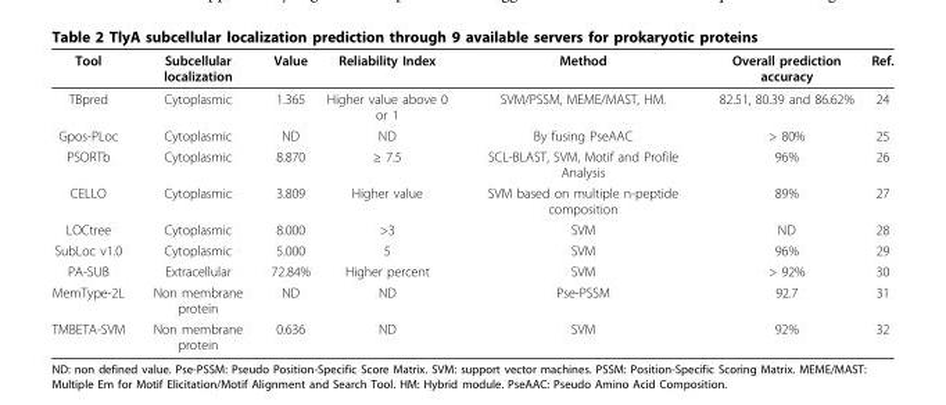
<table><thead><tr><td>Tool</td><td>Subcellular localization</td><td>Value</td><td>Reliability Index</td><td>Method</td><td>Overall prediction accuracy</td><td>Ref.</td></tr></thead><tbody><tr><td>TBpred</td><td>Cytoplasmic</td><td>1.365</td><td>Higher value above 0 or 1</td><td>SVM/PSSM, MEME/MAST, HM.</td><td>82.51, 80.39 and 86.62%</td><td>24</td></tr><tr><td>Gpos-PLoc</td><td>Cytoplasmic</td><td>ND</td><td>ND</td><td>By fusing PseAAC</td><td>&gt; 80%</td><td>25</td></tr><tr><td>PSORTb</td><td>Cytoplasmic</td><td>8.870</td><td>≥ 7.5</td><td>SCL-BLAST, SVM, Motif and Profile Analysis</td><td>96%</td><td>26</td></tr><tr><td>CELLO</td><td>Cytoplasmic</td><td>3.809</td><td>Higher value</td><td>SVM based on multiple n-peptide composition</td><td>89%</td><td>27</td></tr><tr><td>LOCtree</td><td>Cytoplasmic</td><td>8.000</td><td>&gt;3</td><td>SVM</td><td>ND</td><td>28</td></tr><tr><td>SubLoc v1.0</td><td>Cytoplasmic</td><td>5.000</td><td>5</td><td>SVM</td><td>96%</td><td>29</td></tr><tr><td>PA-SUB</td><td>Extracellular</td><td>72.84%</td><td>Higher percent</td><td>SVM</td><td>&gt; 92%</td><td>30</td></tr><tr><td>MemType-2L</td><td>Non membrane protein</td><td>ND</td><td>ND</td><td>Pse-PSSM</td><td>92.7</td><td>31</td></tr><tr><td>TMBETA-SVM</td><td>Non membrane protein</td><td>0.636</td><td>ND</td><td>SVM</td><td>92%</td><td>32</td></tr></tbody></table>